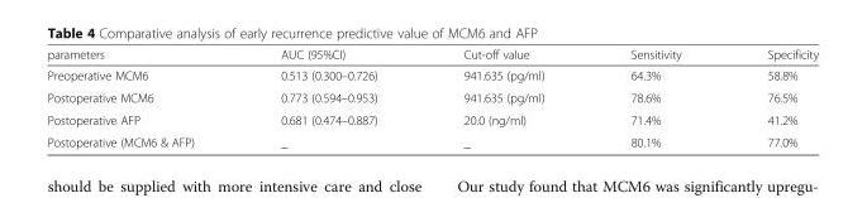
<table><thead><tr><td>parameters</td><td>AUC (95%CI)</td><td>Cut-off value</td><td>Sensitivity</td><td>Specificity</td></tr></thead><tbody><tr><td>Preoperative MCM6</td><td>0.513 (0.300–0.726)</td><td>941.635 (pg/ml)</td><td>64.3%</td><td>58.8%</td></tr><tr><td>Postoperative MCM6</td><td>0.773 (0.594–0.953)</td><td>941.635 (pg/ml)</td><td>78.6%</td><td>76.5%</td></tr><tr><td>Postoperative AFP</td><td>0.681 (0.474–0.887)</td><td>20.0 (ng/ml)</td><td>71.4%</td><td>41.2%</td></tr><tr><td>Postoperative (MCM6 &amp; AFP)</td><td>_</td><td>_</td><td>80.1%</td><td>77.0%</td></tr></tbody></table>